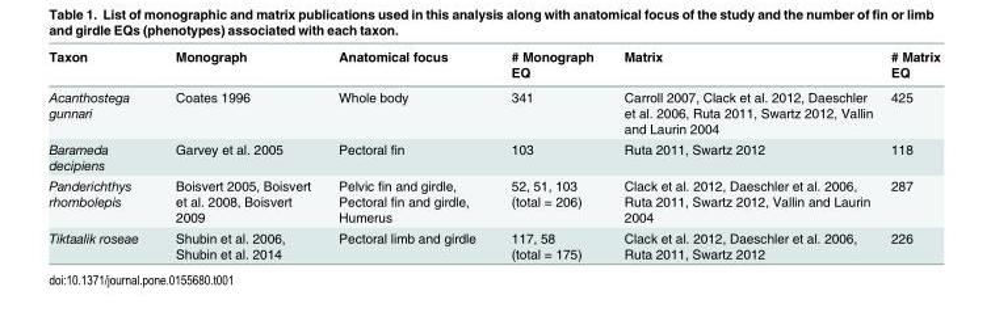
<table><thead><tr><td>Taxon</td><td>Monograph</td><td>Anatomical focus</td><td># Monograph EQ</td><td>Matrix</td><td># Matrix EQ</td></tr></thead><tbody><tr><td>Acanthostega gunnari</td><td>Coates 1996</td><td>Whole body</td><td>341</td><td>Carroll 2007, Clack et al. 2012, Daeschler et al. 2006, Ruta 2011, Swartz 2012, Vallin and Laurin 2004</td><td>425</td></tr><tr><td>Barameda decipiens</td><td>Garvey et al. 2005</td><td>Pectoral fin</td><td>103</td><td>Ruta 2011, Swartz 2012</td><td>118</td></tr><tr><td>Panderichthys rhombolepis</td><td>Boisvert 2005, Boisvert et al. 2008, Boisvert 2009</td><td>Pelvic fin and girdle, Pectoral fin and girdle, Humerus</td><td>52, 51, 103 (total = 206)</td><td>Clack et al. 2012, Daeschler et al. 2006, Ruta 2011, Swartz 2012, Vallin and Laurin 2004</td><td>287</td></tr><tr><td>Tiktaalik roseae</td><td>Shubin et al. 2006, Shubin et al. 2014</td><td>Pectoral limb and girdle</td><td>117, 58 (total = 175)</td><td>Clack et al. 2012, Daeschler et al. 2006, Ruta 2011, Swartz 2012</td><td>226</td></tr></tbody></table>